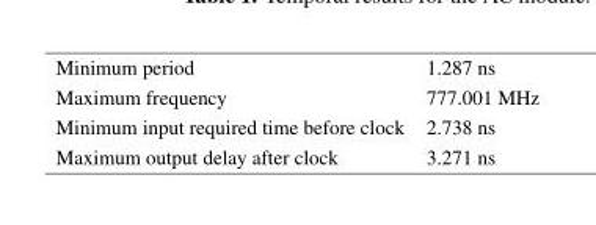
<table><tbody><tr><td>Minimum period</td><td>1.287 ns</td></tr><tr><td>Maximum frequency</td><td>777.001 MHz</td></tr><tr><td>Minimum input required time before clock</td><td>2.738 ns</td></tr><tr><td>Maximum output delay after clock</td><td>3.271 ns</td></tr></tbody></table>